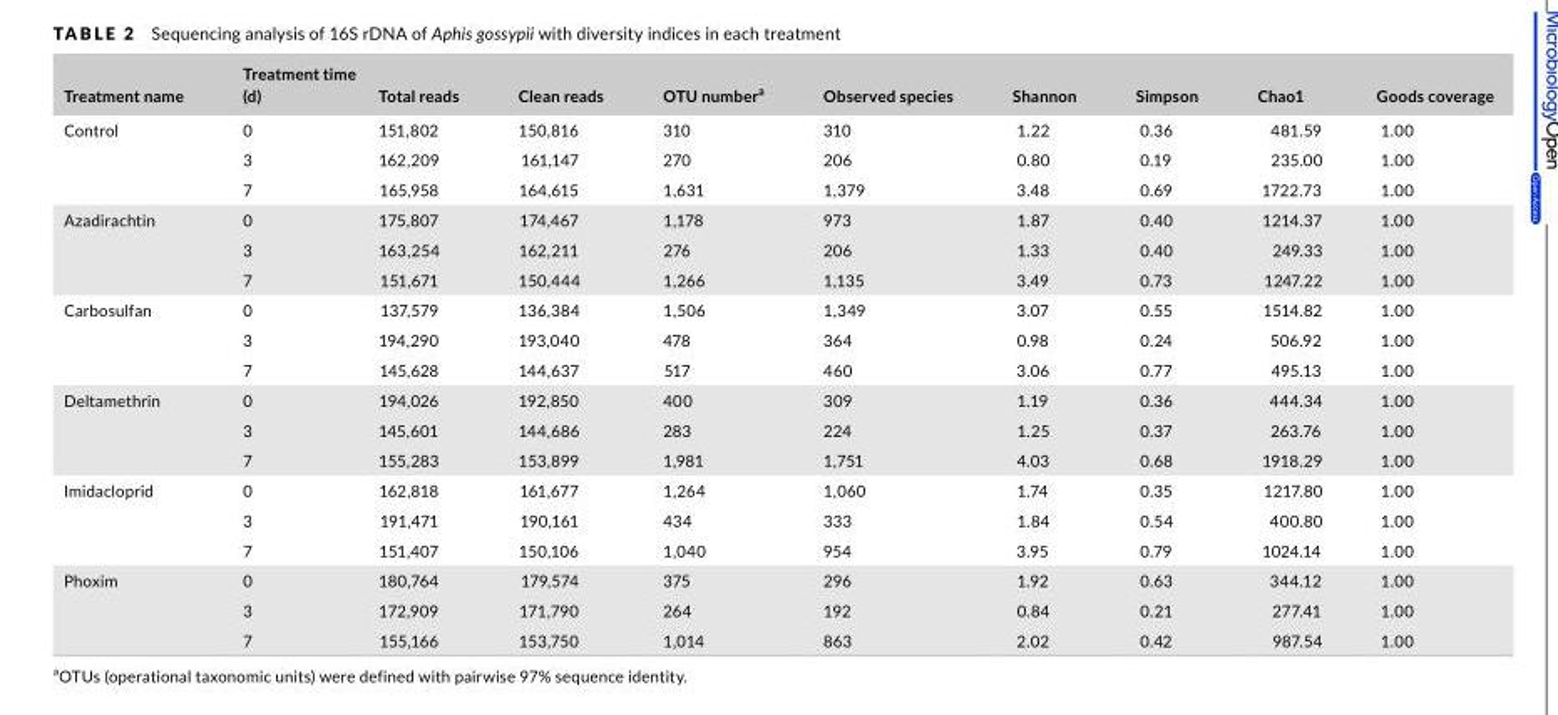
<table><thead><tr><td>Treatment name</td><td>Treatment time (d)</td><td>Total reads</td><td>Clean reads</td><td>OTU number<sup>a</sup></td><td>Observed species</td><td>Shannon</td><td>Simpson</td><td>Chao1</td><td>Goods coverage</td></tr></thead><tbody><tr><td rowspan="3">Control</td><td>0</td><td>151,802</td><td>150,816</td><td>310</td><td>310</td><td>1.22</td><td>0.36</td><td>481.59</td><td>1.00</td></tr><tr><td>3</td><td>162,209</td><td>161,147</td><td>270</td><td>206</td><td>0.80</td><td>0.19</td><td>235.00</td><td>1.00</td></tr><tr><td>7</td><td>165,958</td><td>164,615</td><td>1,631</td><td>1,379</td><td>3.48</td><td>0.69</td><td>1722.73</td><td>1.00</td></tr><tr><td rowspan="3">Azadirachtin</td><td>0</td><td>175,807</td><td>174,467</td><td>1,178</td><td>973</td><td>1.87</td><td>0.40</td><td>1214.37</td><td>1.00</td></tr><tr><td>3</td><td>163,254</td><td>162,211</td><td>276</td><td>206</td><td>1.33</td><td>0.40</td><td>249.33</td><td>1.00</td></tr><tr><td>7</td><td>151,671</td><td>150,444</td><td>1,266</td><td>1,135</td><td>3.49</td><td>0.73</td><td>1247.22</td><td>1.00</td></tr><tr><td rowspan="3">Carbosulfan</td><td>0</td><td>137,579</td><td>136,384</td><td>1,506</td><td>1,349</td><td>3.07</td><td>0.55</td><td>1514.82</td><td>1.00</td></tr><tr><td>3</td><td>194,290</td><td>193,040</td><td>478</td><td>364</td><td>0.98</td><td>0.24</td><td>506.92</td><td>1.00</td></tr><tr><td>7</td><td>145,628</td><td>144,637</td><td>517</td><td>460</td><td>3.06</td><td>0.77</td><td>495.13</td><td>1.00</td></tr><tr><td rowspan="3">Deltamethrin</td><td>0</td><td>194,026</td><td>192,850</td><td>400</td><td>309</td><td>1.19</td><td>0.36</td><td>444.34</td><td>1.00</td></tr><tr><td>3</td><td>145,601</td><td>144,686</td><td>283</td><td>224</td><td>1.25</td><td>0.37</td><td>263.76</td><td>1.00</td></tr><tr><td>7</td><td>155,283</td><td>153,899</td><td>1,981</td><td>1,751</td><td>4.03</td><td>0.68</td><td>1918.29</td><td>1.00</td></tr><tr><td rowspan="3">Imidacloprid</td><td>0</td><td>162,818</td><td>161,677</td><td>1,264</td><td>1,060</td><td>1.74</td><td>0.35</td><td>1217.80</td><td>1.00</td></tr><tr><td>3</td><td>191,471</td><td>190,161</td><td>434</td><td>333</td><td>1.84</td><td>0.54</td><td>400.80</td><td>1.00</td></tr><tr><td>7</td><td>151,407</td><td>150,106</td><td>1,040</td><td>954</td><td>3.95</td><td>0.79</td><td>1024.14</td><td>1.00</td></tr><tr><td rowspan="3">Phoxim</td><td>0</td><td>180,764</td><td>179,574</td><td>375</td><td>296</td><td>1.92</td><td>0.63</td><td>344.12</td><td>1.00</td></tr><tr><td>3</td><td>172,909</td><td>171,790</td><td>264</td><td>192</td><td>0.84</td><td>0.21</td><td>277.41</td><td>1.00</td></tr><tr><td>7</td><td>155,166</td><td>153,750</td><td>1,014</td><td>863</td><td>2.02</td><td>0.42</td><td>987.54</td><td>1.00</td></tr></tbody></table>